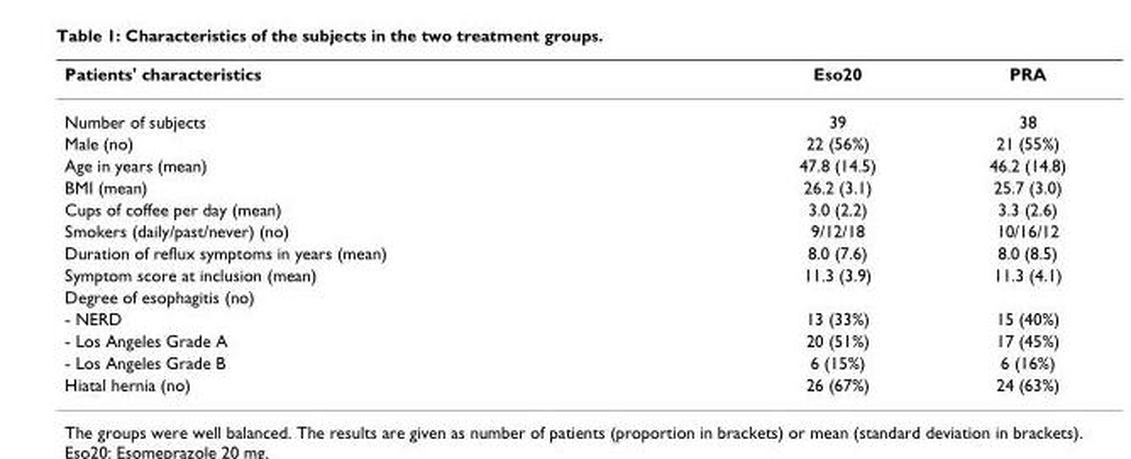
<table><thead><tr><td>Patients&#x27; characteristics</td><td>Eso20</td><td>PRA</td></tr></thead><tbody><tr><td>Number of subjects</td><td>39</td><td>38</td></tr><tr><td>Male (no)</td><td>22 (56%)</td><td>21 (55%)</td></tr><tr><td>Age in years (mean)</td><td>47.8 (14.5)</td><td>46.2 (14.8)</td></tr><tr><td>BMI (mean)</td><td>26.2 (3.1)</td><td>25.7 (3.0)</td></tr><tr><td>Cups of coffee per day (mean)</td><td>3.0 (2.2)</td><td>3.3 (2.6)</td></tr><tr><td>Smokers (daily/past/never) (no)</td><td>9/12/18</td><td>10/16/12</td></tr><tr><td>Duration of reflux symptoms in years (mean)</td><td>8.0 (7.6)</td><td>8.0 (8.5)</td></tr><tr><td>Symptom score at inclusion (mean)</td><td>11.3 (3.9)</td><td>11.3 (4.1)</td></tr><tr><td colspan="3">Degree of esophagitis (no)</td></tr><tr><td>- NERD</td><td>13 (33%)</td><td>15 (40%)</td></tr><tr><td>- Los Angeles Grade A</td><td>20 (51%)</td><td>17 (45%)</td></tr><tr><td>- Los Angeles Grade B</td><td>6 (15%)</td><td>6 (16%)</td></tr><tr><td>Hiatal hernia (no)</td><td>26 (67%)</td><td>24 (63%)</td></tr></tbody></table>